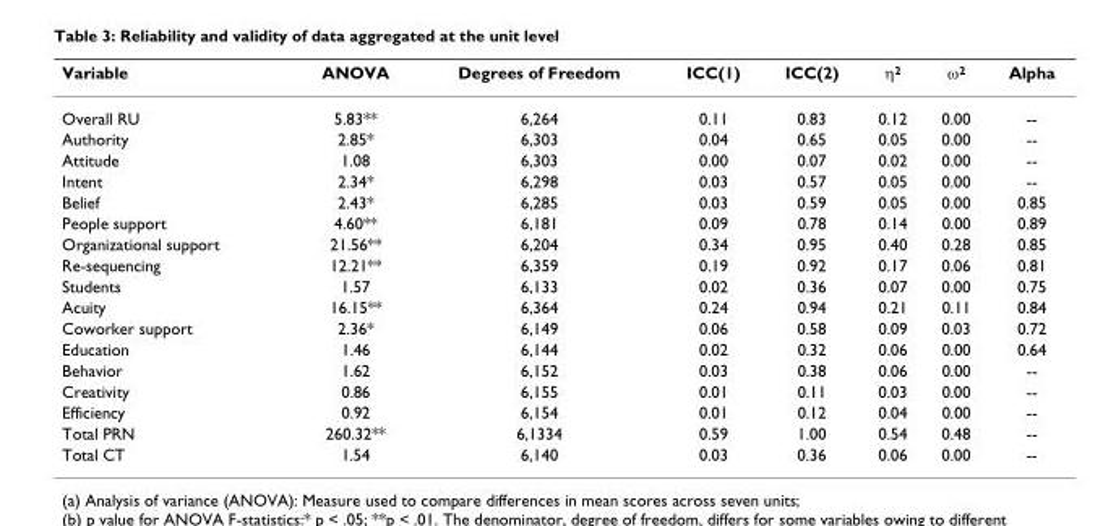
<table><thead><tr><td>Variable</td><td>ANOVA</td><td>Degrees of Freedom</td><td>ICC(1)</td><td>ICC(2)</td><td>η<sup>2</sup></td><td>ω<sup>2</sup></td><td>Alpha</td></tr></thead><tbody><tr><td>Overall RU</td><td>5.83**</td><td>6,264</td><td>0.11</td><td>0.83</td><td>0.12</td><td>0.00</td><td>--</td></tr><tr><td>Authority</td><td>2.85*</td><td>6,303</td><td>0.04</td><td>0.65</td><td>0.05</td><td>0.00</td><td>--</td></tr><tr><td>Attitude</td><td>1.08</td><td>6,303</td><td>0.00</td><td>0.07</td><td>0.02</td><td>0.00</td><td>--</td></tr><tr><td>Intent</td><td>2.34*</td><td>6,298</td><td>0.03</td><td>0.57</td><td>0.05</td><td>0.00</td><td>--</td></tr><tr><td>Belief</td><td>2.43*</td><td>6,285</td><td>0.03</td><td>0.59</td><td>0.05</td><td>0.00</td><td>0.85</td></tr><tr><td>People support</td><td>4.60**</td><td>6,181</td><td>0.09</td><td>0.78</td><td>0.14</td><td>0.00</td><td>0.89</td></tr><tr><td>Organizational support</td><td>21.56**</td><td>6,204</td><td>0.34</td><td>0.95</td><td>0.40</td><td>0.28</td><td>0.85</td></tr><tr><td>Re-sequencing</td><td>12.21**</td><td>6,359</td><td>0.19</td><td>0.92</td><td>0.17</td><td>0.06</td><td>0.81</td></tr><tr><td>Students</td><td>1.57</td><td>6,133</td><td>0.02</td><td>0.36</td><td>0.07</td><td>0.00</td><td>0.75</td></tr><tr><td>Acuity</td><td>16.15**</td><td>6,364</td><td>0.24</td><td>0.94</td><td>0.21</td><td>0.11</td><td>0.84</td></tr><tr><td>Coworker support</td><td>2.36*</td><td>6,149</td><td>0.06</td><td>0.58</td><td>0.09</td><td>0.03</td><td>0.72</td></tr><tr><td>Education</td><td>1.46</td><td>6,144</td><td>0.02</td><td>0.32</td><td>0.06</td><td>0.00</td><td>0.64</td></tr><tr><td>Behavior</td><td>1.62</td><td>6,152</td><td>0.03</td><td>0.38</td><td>0.06</td><td>0.00</td><td>--</td></tr><tr><td>Creativity</td><td>0.86</td><td>6,155</td><td>0.01</td><td>0.11</td><td>0.03</td><td>0.00</td><td>--</td></tr><tr><td>Efficiency</td><td>0.92</td><td>6,154</td><td>0.01</td><td>0.12</td><td>0.04</td><td>0.00</td><td>--</td></tr><tr><td>Total PRN</td><td>260.32**</td><td>6,1334</td><td>0.59</td><td>1.00</td><td>0.54</td><td>0.48</td><td>--</td></tr><tr><td>Total CT</td><td>1.54</td><td>6,140</td><td>0.03</td><td>0.36</td><td>0.06</td><td>0.00</td><td>--</td></tr></tbody></table>